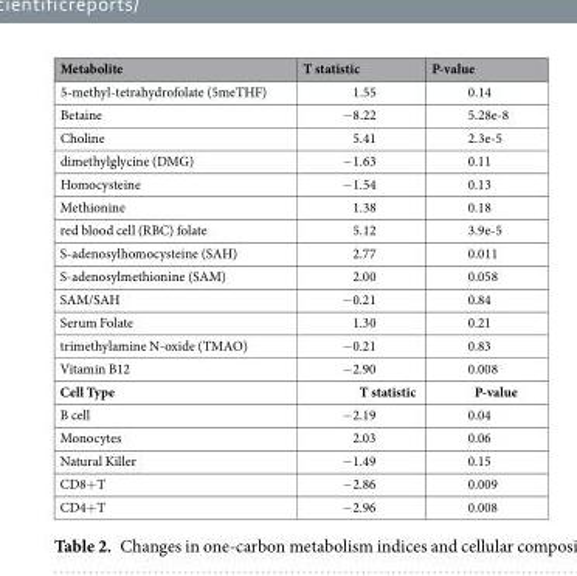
<table><thead><tr><td>Metabolite</td><td>T statistic</td><td>P-value</td></tr></thead><tbody><tr><td>5-methyl-tetrahydrofolate (5meTHF)</td><td>1.55</td><td>0.14</td></tr><tr><td>Betaine</td><td>−8.22</td><td>5.28e-8</td></tr><tr><td>Choline</td><td>5.41</td><td>2.3e-5</td></tr><tr><td>dimethylglycine (DMG)</td><td>−1.63</td><td>0.11</td></tr><tr><td>Homocysteine</td><td>−1.54</td><td>0.13</td></tr><tr><td>Methionine</td><td>1.38</td><td>0.18</td></tr><tr><td>red blood cell (RBC) folate</td><td>5.12</td><td>3.9e-5</td></tr><tr><td>S-adenosylhomocysteine (SAH)</td><td>2.77</td><td>0.011</td></tr><tr><td>S-adenosylmethionine (SAM)</td><td>2.00</td><td>0.058</td></tr><tr><td>SAM/SAH</td><td>−0.21</td><td>0.84</td></tr><tr><td>Serum Folate</td><td>1.30</td><td>0.21</td></tr><tr><td>trimethylamine N-oxide (TMAO)</td><td>−0.21</td><td>0.83</td></tr><tr><td>Vitamin B12</td><td>−2.90</td><td>0.008</td></tr><tr><td>Cell Type</td><td>T statistic</td><td>P-value</td></tr><tr><td>B cell</td><td>−2.19</td><td>0.04</td></tr><tr><td>Monocytes</td><td>2.03</td><td>0.06</td></tr><tr><td>Natural Killer</td><td>−1.49</td><td>0.15</td></tr><tr><td>CD8+T</td><td>−2.86</td><td>0.009</td></tr><tr><td>CD4+T</td><td>−2.96</td><td>0.008</td></tr></tbody></table>